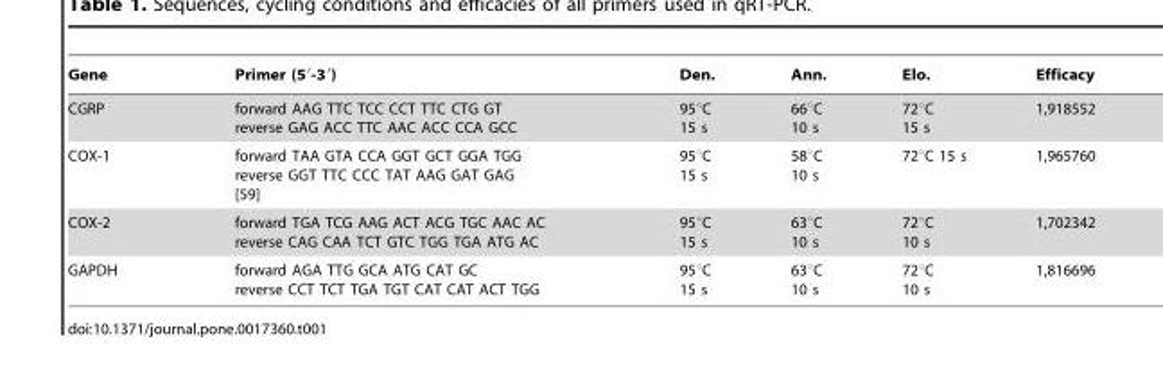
<table><thead><tr><td>Gene</td><td>Primer (5′-3′)</td><td>Den.</td><td>Ann.</td><td>Elo.</td><td>Efficacy</td></tr></thead><tbody><tr><td>CGRP</td><td>forward AAG TTC TCC CCT TTC CTG GT reverse GAG ACC TTC AAC ACC CCA GCC</td><td>95°C 15 s</td><td>66°C 10 s</td><td>72°C 15 s</td><td>1,918552</td></tr><tr><td>COX-1</td><td>forward TAA GTA CCA GGT GCT GGA TGG reverse GGT TTC CCC TAT AAG GAT GAG [59]</td><td>95°C 15 s</td><td>58°C 10 s</td><td>72°C 15 s</td><td>1,965760</td></tr><tr><td>COX-2</td><td>forward TGA TCG AAG ACT ACG TGC AAC AC reverse CAG CAA TCT GTC TGG TGA ATG AC</td><td>95°C 15 s</td><td>63°C 10 s</td><td>72°C 10 s</td><td>1,702342</td></tr><tr><td>GAPDH</td><td>forward AGA TTG GCA ATG CAT GC reverse CCT TCT TGA TGT CAT CAT ACT TGG</td><td>95°C 15 s</td><td>63°C 10 s</td><td>72°C 10 s</td><td>1,816696</td></tr></tbody></table>